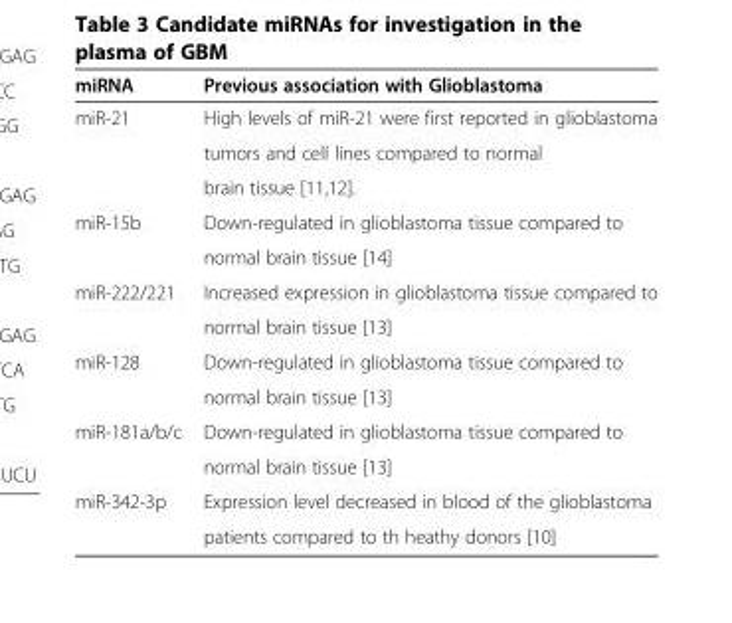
<table><thead><tr><td>miRNA</td><td>Previous association with Glioblastoma</td></tr></thead><tbody><tr><td rowspan="3">miR-21</td><td>High levels of miR-21 were first reported in glioblastoma</td></tr><tr><td>tumors and cell lines compared to normal</td></tr><tr><td>brain tissue [11,12].</td></tr><tr><td rowspan="2">miR-15b</td><td>Down-regulated in glioblastoma tissue compared to</td></tr><tr><td>normal brain tissue [14]</td></tr><tr><td rowspan="2">miR-222/221</td><td>Increased expression in glioblastoma tissue compared to</td></tr><tr><td>normal brain tissue [13]</td></tr><tr><td rowspan="2">miR-128</td><td>Down-regulated in glioblastoma tissue compared to</td></tr><tr><td>normal brain tissue [13]</td></tr><tr><td rowspan="2">miR-181a/b/c</td><td>Down-regulated in glioblastoma tissue compared to</td></tr><tr><td>normal brain tissue [13]</td></tr><tr><td rowspan="2">miR-342-3p</td><td>Expression level decreased in blood of the glioblastoma</td></tr><tr><td>patients compared to th heathy donors [10]</td></tr></tbody></table>